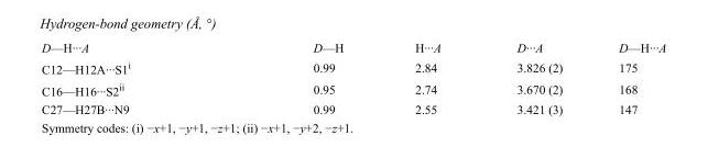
<table><tbody><tr><td>D—H···A</td><td>D—H</td><td>H···A</td><td>D···A</td><td>D—H···A</td></tr><tr><td>C12—H12A···S1<sup>i</sup></td><td>0.99</td><td>2.84</td><td>3.826 (2)</td><td>175</td></tr><tr><td>C16—H16···S2<sup>ii</sup></td><td>0.95</td><td>2.74</td><td>3.670 (2)</td><td>168</td></tr><tr><td>C27—H27B···N9</td><td>0.99</td><td>2.55</td><td>3.421 (3)</td><td>147</td></tr></tbody></table>